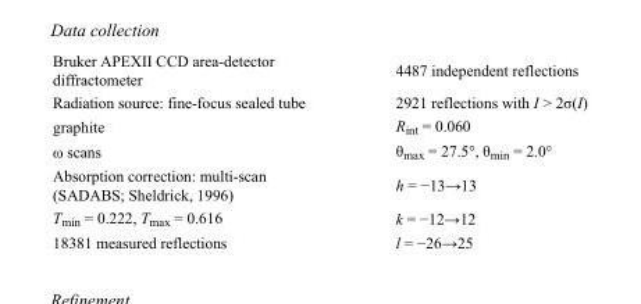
<table><tbody><tr><td>Bruker APEXII CCD area-detector diffractometer</td><td>4487 independent reflections</td></tr><tr><td>Radiation source: fine-focus sealed tube</td><td>2921 reflections with I &gt; 2σ(I)</td></tr><tr><td>graphite</td><td>R<sub>int</sub> = 0.060</td></tr><tr><td>ω scans</td><td>θ<sub>max</sub> = 27.5°, θ<sub>min</sub> = 2.0°</td></tr><tr><td>Absorption correction: multi-scan (SADABS; Sheldrick, 1996)</td><td>h = −13→13</td></tr><tr><td>T<sub>min</sub> = 0.222, T<sub>max</sub> = 0.616</td><td>k = −12→12</td></tr><tr><td>18381 measured reflections</td><td>l = −26→25</td></tr></tbody></table>